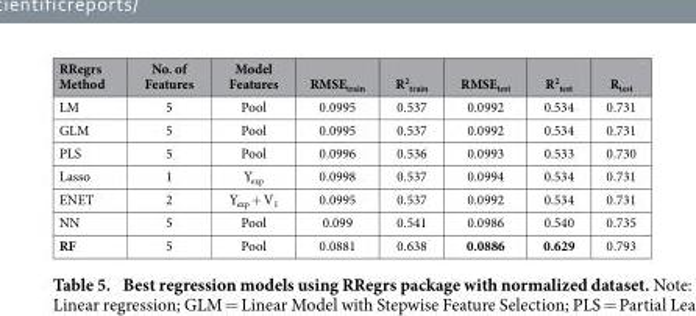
<table><thead><tr><td>RRegrs Method</td><td>No. of Features</td><td>Model Features</td><td>RMSE<sub>train</sub></td><td>R<sup>2</sup> <sub>train</sub></td><td>RMSE<sub>test</sub></td><td>R<sup>2</sup> <sub>test</sub></td><td>R<sub>test</sub></td></tr></thead><tbody><tr><td>LM</td><td>5</td><td>Pool</td><td>0.0995</td><td>0.537</td><td>0.0992</td><td>0.534</td><td>0.731</td></tr><tr><td>GLM</td><td>5</td><td>Pool</td><td>0.0995</td><td>0.537</td><td>0.0992</td><td>0.534</td><td>0.731</td></tr><tr><td>PLS</td><td>5</td><td>Pool</td><td>0.0996</td><td>0.536</td><td>0.0993</td><td>0.533</td><td>0.730</td></tr><tr><td>Lasso</td><td>1</td><td>Y<sub>exp</sub></td><td>0.0998</td><td>0.537</td><td>0.0994</td><td>0.534</td><td>0.731</td></tr><tr><td>ENET</td><td>2</td><td>Y<sub>exp</sub> + V<sub>1</sub></td><td>0.0995</td><td>0.537</td><td>0.0992</td><td>0.534</td><td>0.731</td></tr><tr><td>NN</td><td>5</td><td>Pool</td><td>0.099</td><td>0.541</td><td>0.0986</td><td>0.540</td><td>0.735</td></tr><tr><td>RF</td><td>5</td><td>Pool</td><td>0.0881</td><td>0.638</td><td>0.0886</td><td>0.629</td><td>0.793</td></tr></tbody></table>